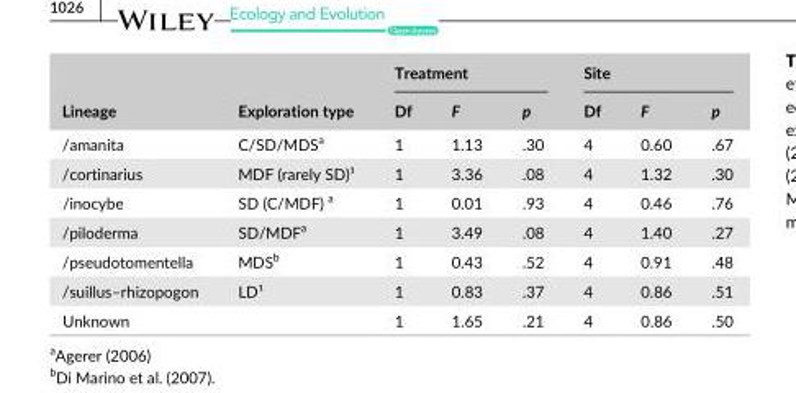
<table><thead><tr><td rowspan="2">Lineage</td><td rowspan="2">Exploration type</td><td colspan="3">Treatment</td><td colspan="3">Site</td></tr><tr><td>Df</td><td>F</td><td>p</td><td>Df</td><td>F</td><td>p</td></tr></thead><tbody><tr><td>/amanita</td><td>C/SD/MDS<sup>a</sup></td><td>1</td><td>1.13</td><td>.30</td><td>4</td><td>0.60</td><td>.67</td></tr><tr><td>/cortinarius</td><td>MDF (rarely SD)¹</td><td>1</td><td>3.36</td><td>.08</td><td>4</td><td>1.32</td><td>.30</td></tr><tr><td>/inocybe</td><td>SD (C/MDF) a</td><td>1</td><td>0.01</td><td>.93</td><td>4</td><td>0.46</td><td>.76</td></tr><tr><td>/piloderma</td><td>SD/MDF<sup>a</sup></td><td>1</td><td>3.49</td><td>.08</td><td>4</td><td>1.40</td><td>.27</td></tr><tr><td>/pseudotomentella</td><td>MDS<sup>b</sup></td><td>1</td><td>0.43</td><td>.52</td><td>4</td><td>0.91</td><td>.48</td></tr><tr><td>/suillus–rhizopogon</td><td>LD¹</td><td>1</td><td>0.83</td><td>.37</td><td>4</td><td>0.86</td><td>.51</td></tr><tr><td>Unknown</td><td></td><td>1</td><td>1.65</td><td>.21</td><td>4</td><td>0.86</td><td>.50</td></tr></tbody></table>